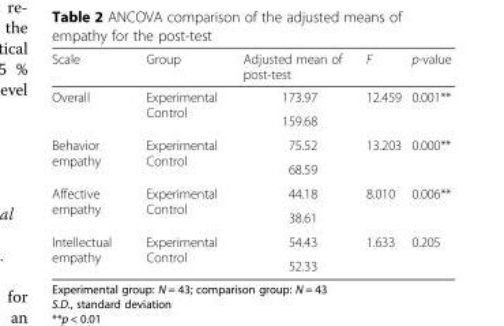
<table><thead><tr><td>Scale</td><td>Group</td><td>Adjusted mean of post-test</td><td>F</td><td>p-value</td></tr></thead><tbody><tr><td rowspan="2">Overall</td><td rowspan="2">Experimental Control</td><td>173.97</td><td rowspan="2">12.459</td><td rowspan="2">0.001**</td></tr><tr><td>159.68</td></tr><tr><td rowspan="2">Behavior empathy</td><td rowspan="2">Experimental Control</td><td>75.52</td><td rowspan="2">13.203</td><td rowspan="2">0.000**</td></tr><tr><td>68.59</td></tr><tr><td rowspan="2">Affective empathy</td><td rowspan="2">Experimental Control</td><td>44.18</td><td rowspan="2">8.010</td><td rowspan="2">0.006**</td></tr><tr><td>38.61</td></tr><tr><td rowspan="2">Intellectual empathy</td><td rowspan="2">Experimental Control</td><td>54.43</td><td rowspan="2">1.633</td><td rowspan="2">0.205</td></tr><tr><td>52.33</td></tr></tbody></table>